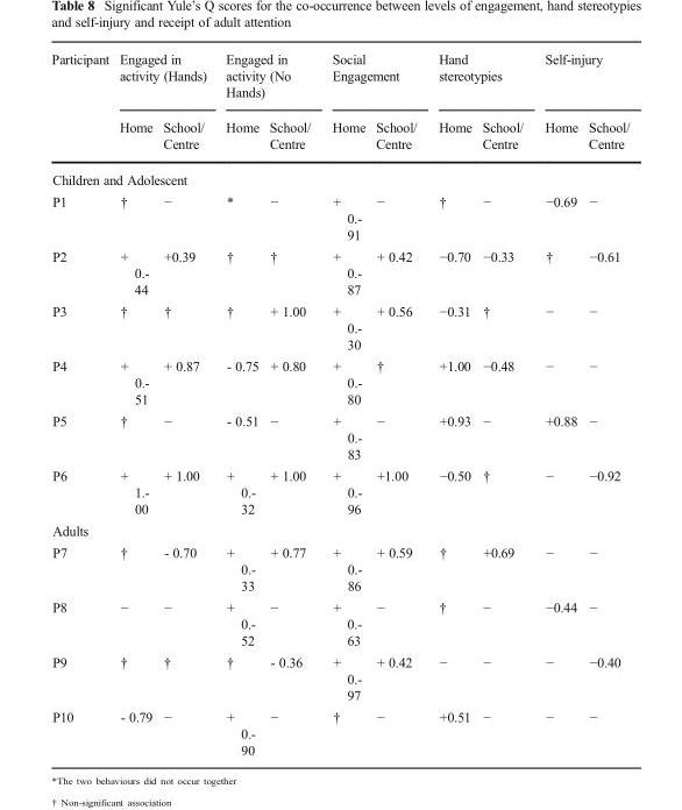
<table><thead><tr><td rowspan="2">Participant</td><td colspan="2">Engaged in activity (Hands)</td><td colspan="2">Engaged in activity (No Hands)</td><td colspan="2">Social Engagement</td><td colspan="2">Hand stereotypies</td><td colspan="2">Self-injury</td></tr><tr><td>Home</td><td>School/ Centre</td><td>Home</td><td>School/ Centre</td><td>Home</td><td>School/ Centre</td><td>Home</td><td>School/ Centre</td><td>Home</td><td>School/ Centre</td></tr></thead><tbody><tr><td colspan="11">Children and Adolescent</td></tr><tr><td>P1</td><td>†</td><td>−</td><td>*</td><td>−</td><td>+ 0.- 91</td><td>−</td><td>†</td><td>−</td><td>−0.69</td><td>−</td></tr><tr><td>P2</td><td>+ 0.- 44</td><td>+0.39</td><td>†</td><td>†</td><td>+ 0.- 87</td><td>+ 0.42</td><td>−0.70</td><td>−0.33</td><td>†</td><td>−0.61</td></tr><tr><td>P3</td><td>†</td><td>†</td><td>†</td><td>+ 1.00</td><td>+ 0.- 30</td><td>+ 0.56</td><td>−0.31</td><td>†</td><td>−</td><td>−</td></tr><tr><td>P4</td><td>+ 0.- 51</td><td>+ 0.87</td><td>- 0.75</td><td>+ 0.80</td><td>+ 0.- 80</td><td>†</td><td>+1.00</td><td>−0.48</td><td>−</td><td>−</td></tr><tr><td>P5</td><td>†</td><td>−</td><td>- 0.51</td><td>−</td><td>+ 0.- 83</td><td>−</td><td>+0.93</td><td>−</td><td>+0.88</td><td>−</td></tr><tr><td>P6</td><td>+ 1.- 00</td><td>+ 1.00</td><td>+ 0.- 32</td><td>+ 1.00</td><td>+ 0.- 96</td><td>+1.00</td><td>−0.50</td><td>†</td><td>−</td><td>−0.92</td></tr><tr><td colspan="11">Adults</td></tr><tr><td>P7</td><td>†</td><td>- 0.70</td><td>+ 0.- 33</td><td>+ 0.77</td><td>+ 0.- 86</td><td>+ 0.59</td><td>†</td><td>+0.69</td><td>−</td><td>−</td></tr><tr><td>P8</td><td>−</td><td>−</td><td>+ 0.- 52</td><td>−</td><td>+ 0.- 63</td><td>−</td><td>†</td><td>−</td><td>−0.44</td><td>−</td></tr><tr><td>P9</td><td>†</td><td>†</td><td>†</td><td>- 0.36</td><td>+ 0.- 97</td><td>+ 0.42</td><td>−</td><td>−</td><td>−</td><td>−0.40</td></tr><tr><td>P10</td><td>- 0.79</td><td>−</td><td>+ 0.- 90</td><td>−</td><td>†</td><td>−</td><td>+0.51</td><td>−</td><td>−</td><td>−</td></tr></tbody></table>